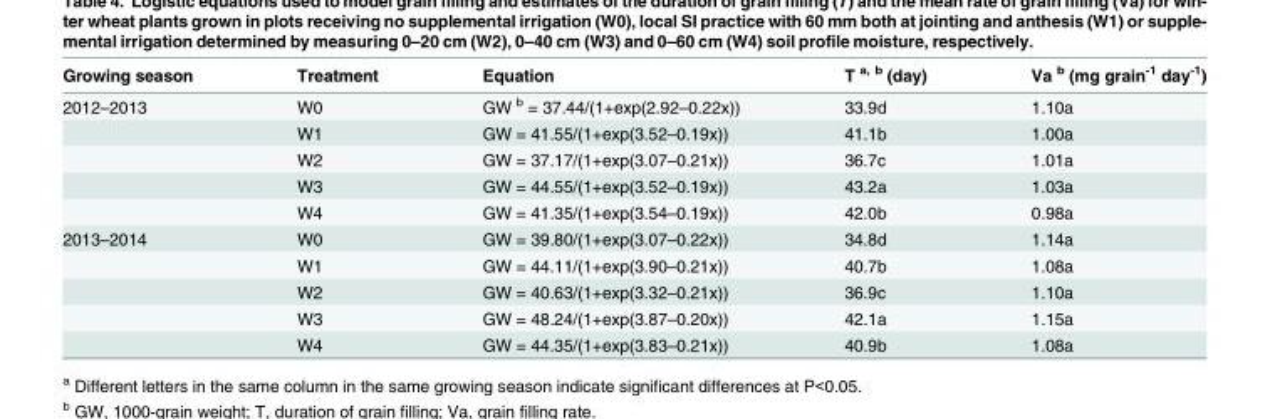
<table><thead><tr><td>Growing season</td><td>Treatment</td><td>Equation</td><td>T <sup>a, b</sup> (day)</td><td>Va <sup>b</sup> (mg grain<sup>-1</sup> day<sup>-1</sup>)</td></tr></thead><tbody><tr><td rowspan="5">2012–2013</td><td>W0</td><td>GW <sup>b</sup> = 37.44/(1+exp(2.92–0.22x))</td><td>33.9d</td><td>1.10a</td></tr><tr><td>W1</td><td>GW = 41.55/(1+exp(3.52–0.19x))</td><td>41.1b</td><td>1.00a</td></tr><tr><td>W2</td><td>GW = 37.17/(1+exp(3.07–0.21x))</td><td>36.7c</td><td>1.01a</td></tr><tr><td>W3</td><td>GW = 44.55/(1+exp(3.52–0.19x))</td><td>43.2a</td><td>1.03a</td></tr><tr><td>W4</td><td>GW = 41.35/(1+exp(3.54–0.19x))</td><td>42.0b</td><td>0.98a</td></tr><tr><td rowspan="5">2013–2014</td><td>W0</td><td>GW = 39.80/(1+exp(3.07–0.22x))</td><td>34.8d</td><td>1.14a</td></tr><tr><td>W1</td><td>GW = 44.11/(1+exp(3.90–0.21x))</td><td>40.7b</td><td>1.08a</td></tr><tr><td>W2</td><td>GW = 40.63/(1+exp(3.32–0.21x))</td><td>36.9c</td><td>1.10a</td></tr><tr><td>W3</td><td>GW = 48.24/(1+exp(3.87–0.20x))</td><td>42.1a</td><td>1.15a</td></tr><tr><td>W4</td><td>GW = 44.35/(1+exp(3.83–0.21x))</td><td>40.9b</td><td>1.08a</td></tr></tbody></table>